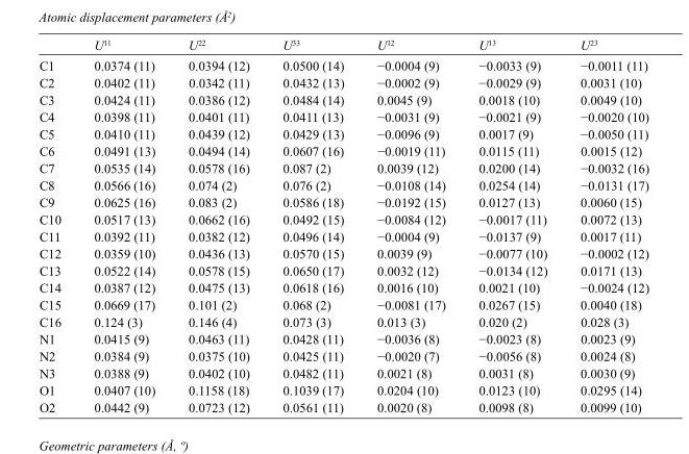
<table><thead><tr><td></td><td>U<sup>11</sup></td><td>U<sup>22</sup></td><td>U<sup>33</sup></td><td>U<sup>12</sup></td><td>U<sup>13</sup></td><td>U<sup>23</sup></td></tr></thead><tbody><tr><td>C1</td><td>0.0374 (11)</td><td>0.0394 (12)</td><td>0.0500 (14)</td><td>−0.0004 (9)</td><td>−0.0033 (9)</td><td>−0.0011 (11)</td></tr><tr><td>C2</td><td>0.0402 (11)</td><td>0.0342 (11)</td><td>0.0432 (13)</td><td>−0.0002 (9)</td><td>−0.0029 (9)</td><td>0.0031 (10)</td></tr><tr><td>C3</td><td>0.0424 (11)</td><td>0.0386 (12)</td><td>0.0484 (14)</td><td>0.0045 (9)</td><td>0.0018 (10)</td><td>0.0049 (10)</td></tr><tr><td>C4</td><td>0.0398 (11)</td><td>0.0401 (11)</td><td>0.0411 (13)</td><td>−0.0031 (9)</td><td>−0.0021 (9)</td><td>−0.0020 (10)</td></tr><tr><td>C5</td><td>0.0410 (11)</td><td>0.0439 (12)</td><td>0.0429 (13)</td><td>−0.0096 (9)</td><td>0.0017 (9)</td><td>−0.0050 (11)</td></tr><tr><td>C6</td><td>0.0491 (13)</td><td>0.0494 (14)</td><td>0.0607 (16)</td><td>−0.0019 (11)</td><td>0.0115 (11)</td><td>0.0015 (12)</td></tr><tr><td>C7</td><td>0.0535 (14)</td><td>0.0578 (16)</td><td>0.087 (2)</td><td>0.0039 (12)</td><td>0.0200 (14)</td><td>−0.0032 (16)</td></tr><tr><td>C8</td><td>0.0566 (16)</td><td>0.074 (2)</td><td>0.076 (2)</td><td>−0.0108 (14)</td><td>0.0254 (14)</td><td>−0.0131 (17)</td></tr><tr><td>C9</td><td>0.0625 (16)</td><td>0.083 (2)</td><td>0.0586 (18)</td><td>−0.0192 (15)</td><td>0.0127 (13)</td><td>0.0060 (15)</td></tr><tr><td>C10</td><td>0.0517 (13)</td><td>0.0662 (16)</td><td>0.0492 (15)</td><td>−0.0084 (12)</td><td>−0.0017 (11)</td><td>0.0072 (13)</td></tr><tr><td>C11</td><td>0.0392 (11)</td><td>0.0382 (12)</td><td>0.0496 (14)</td><td>−0.0004 (9)</td><td>−0.0137 (9)</td><td>0.0017 (11)</td></tr><tr><td>C12</td><td>0.0359 (10)</td><td>0.0436 (13)</td><td>0.0570 (15)</td><td>0.0039 (9)</td><td>−0.0077 (10)</td><td>−0.0002 (12)</td></tr><tr><td>C13</td><td>0.0522 (14)</td><td>0.0578 (15)</td><td>0.0650 (17)</td><td>0.0032 (12)</td><td>−0.0134 (12)</td><td>0.0171 (13)</td></tr><tr><td>C14</td><td>0.0387 (12)</td><td>0.0475 (13)</td><td>0.0618 (16)</td><td>0.0016 (10)</td><td>0.0021 (10)</td><td>−0.0024 (12)</td></tr><tr><td>C15</td><td>0.0669 (17)</td><td>0.101 (2)</td><td>0.068 (2)</td><td>−0.0081 (17)</td><td>0.0267 (15)</td><td>0.0040 (18)</td></tr><tr><td>C16</td><td>0.124 (3)</td><td>0.146 (4)</td><td>0.073 (3)</td><td>0.013 (3)</td><td>0.020 (2)</td><td>0.028 (3)</td></tr><tr><td>N1</td><td>0.0415 (9)</td><td>0.0463 (11)</td><td>0.0428 (11)</td><td>−0.0036 (8)</td><td>−0.0023 (8)</td><td>0.0023 (9)</td></tr><tr><td>N2</td><td>0.0384 (9)</td><td>0.0375 (10)</td><td>0.0425 (11)</td><td>−0.0020 (7)</td><td>−0.0056 (8)</td><td>0.0024 (8)</td></tr><tr><td>N3</td><td>0.0388 (9)</td><td>0.0402 (10)</td><td>0.0482 (11)</td><td>0.0021 (8)</td><td>0.0031 (8)</td><td>0.0030 (9)</td></tr><tr><td>O1</td><td>0.0407 (10)</td><td>0.1158 (18)</td><td>0.1039 (17)</td><td>0.0204 (10)</td><td>0.0123 (10)</td><td>0.0295 (14)</td></tr><tr><td>O2</td><td>0.0442 (9)</td><td>0.0723 (12)</td><td>0.0561 (11)</td><td>0.0020 (8)</td><td>0.0098 (8)</td><td>0.0099 (10)</td></tr></tbody></table>